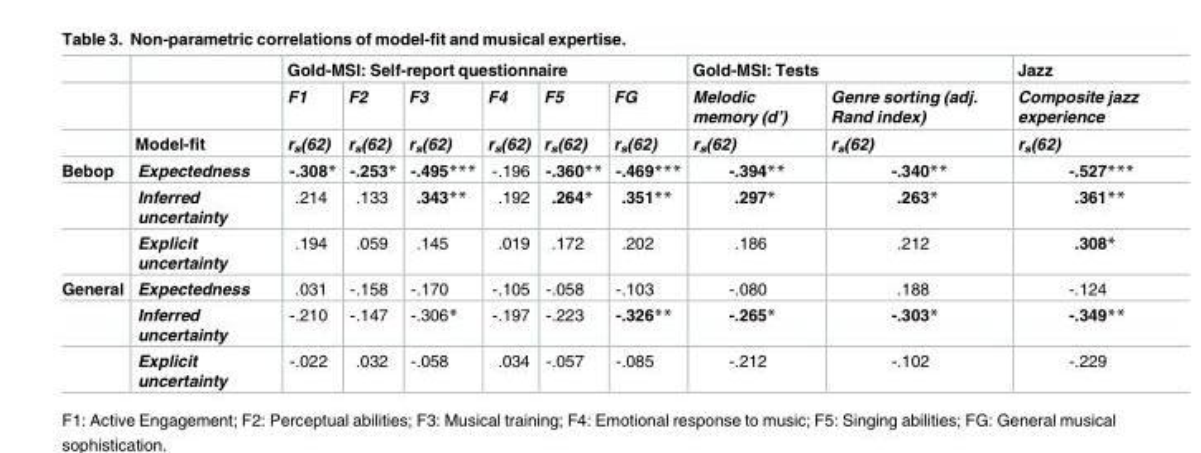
<table><thead><tr><td rowspan="3"></td><td rowspan="3">Model-fit</td><td colspan="6">Gold-MSI: Self-report questionnaire</td><td colspan="2">Gold-MSI: Tests</td><td rowspan="3">Jazz Composite jazz experience r<sub>s</sub>(62)</td></tr><tr><td rowspan="2">F1 r<sub>s</sub>(62)</td><td rowspan="2">F2 r<sub>s</sub>(62)</td><td rowspan="2">F3 r<sub>s</sub>(62)</td><td rowspan="2">F4 r<sub>s</sub>(62)</td><td rowspan="2">F5 r<sub>s</sub>(62)</td><td rowspan="2">FG r<sub>s</sub>(62)</td><td rowspan="2">Melodic memory (d’) r<sub>s</sub>(62)</td><td rowspan="2">Genre sorting (adj. Rand index) r<sub>s</sub>(62)</td></tr><tr></tr></thead><tbody><tr><td rowspan="3">Bebop</td><td>Expectedness</td><td>-.308*</td><td>-.253*</td><td>-.495***</td><td>-.196</td><td>-.360**</td><td>-.469***</td><td>-.394**</td><td>-.340**</td><td>-.527***</td></tr><tr><td>Inferred uncertainty</td><td>.214</td><td>.133</td><td>.343**</td><td>.192</td><td>.264*</td><td>.351**</td><td>.297*</td><td>.263*</td><td>.361**</td></tr><tr><td>Explicit uncertainty</td><td>.194</td><td>.059</td><td>.145</td><td>.019</td><td>.172</td><td>.202</td><td>.186</td><td>.212</td><td>.308*</td></tr><tr><td rowspan="3">General</td><td>Expectedness</td><td>.031</td><td>-.158</td><td>-.170</td><td>-.105</td><td>-.058</td><td>-.103</td><td>-.080</td><td>.188</td><td>-.124</td></tr><tr><td>Inferred uncertainty</td><td>-.210</td><td>-.147</td><td>-.306*</td><td>-.197</td><td>-.223</td><td>-.326**</td><td>-.265*</td><td>-.303*</td><td>-.349**</td></tr><tr><td>Explicit uncertainty</td><td>-.022</td><td>.032</td><td>-.058</td><td>.034</td><td>-.057</td><td>-.085</td><td>-.212</td><td>-.102</td><td>-.229</td></tr></tbody></table>